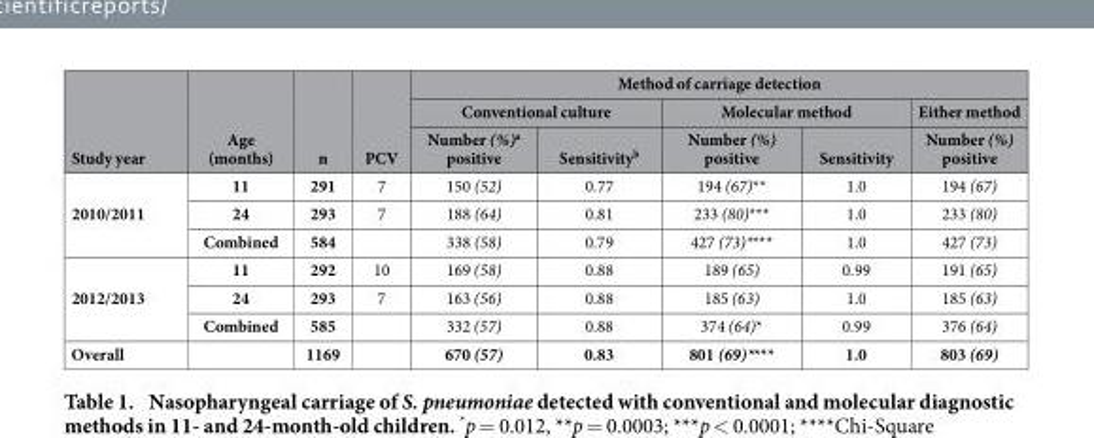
<table><thead><tr><td rowspan="3">Study year</td><td rowspan="3">Age (months)</td><td rowspan="3">n</td><td rowspan="3">PCV</td><td colspan="5">Method of carriage detection</td></tr><tr><td colspan="2">Conventional culture</td><td colspan="2">Molecular method</td><td rowspan="2">Either method Number (%) positive</td></tr><tr><td>Number (%)<sup>a</sup> positive</td><td>Sensitivity<sup>b</sup></td><td>Number (%) positive</td><td>Sensitivity</td></tr></thead><tbody><tr><td rowspan="3">2010/2011</td><td>11</td><td>291</td><td>7</td><td>150 (52)</td><td>0.77</td><td>194 (67)**</td><td>1.0</td><td>194 (67)</td></tr><tr><td>24</td><td>293</td><td>7</td><td>188 (64)</td><td>0.81</td><td>233 (80)***</td><td>1.0</td><td>233 (80)</td></tr><tr><td>Combined</td><td>584</td><td></td><td>338 (58)</td><td>0.79</td><td>427 (73)****</td><td>1.0</td><td>427 (73)</td></tr><tr><td rowspan="3">2012/2013</td><td>11</td><td>292</td><td>10</td><td>169 (58)</td><td>0.88</td><td>189 (65)</td><td>0.99</td><td>191 (65)</td></tr><tr><td>24</td><td>293</td><td>7</td><td>163 (56)</td><td>0.88</td><td>185 (63)</td><td>1.0</td><td>185 (63)</td></tr><tr><td>Combined</td><td>585</td><td></td><td>332 (57)</td><td>0.88</td><td>374 (64)*</td><td>0.99</td><td>376 (64)</td></tr><tr><td>Overall</td><td></td><td>1169</td><td></td><td>670 (57)</td><td>0.83</td><td>801 (69)****</td><td>1.0</td><td>803 (69)</td></tr></tbody></table>